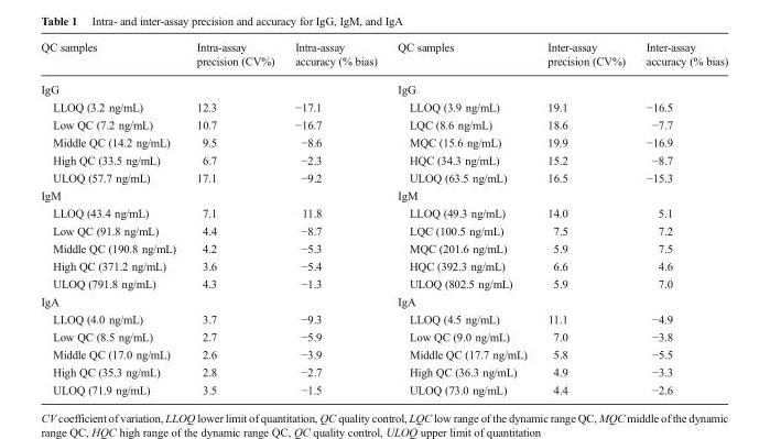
<table><thead><tr><td>QC samples</td><td>Intra-assay precision (CV%)</td><td>Intra-assay accuracy (% bias)</td><td>QC samples</td><td>Inter-assay precision (CV%)</td><td>Inter-assay accuracy (% bias)</td></tr></thead><tbody><tr><td colspan="3">IgG</td><td colspan="3">IgG</td></tr><tr><td>LLOQ (3.2 ng/mL)</td><td>12.3</td><td>−17.1</td><td>LLOQ (3.9 ng/mL)</td><td>19.1</td><td>−16.5</td></tr><tr><td>Low QC (7.2 ng/mL)</td><td>10.7</td><td>−16.7</td><td>LQC (8.6 ng/mL)</td><td>18.6</td><td>−7.7</td></tr><tr><td>Middle QC (14.2 ng/mL)</td><td>9.5</td><td>−8.6</td><td>MQC (15.6 ng/mL)</td><td>19.9</td><td>−16.9</td></tr><tr><td>High QC (33.5 ng/mL)</td><td>6.7</td><td>−2.3</td><td>HQC (34.3 ng/mL)</td><td>15.2</td><td>−8.7</td></tr><tr><td>ULOQ (57.7 ng/mL)</td><td>17.1</td><td>−9.2</td><td>ULOQ (63.5 ng/mL)</td><td>16.5</td><td>−15.3</td></tr><tr><td colspan="3">IgM</td><td colspan="3">IgM</td></tr><tr><td>LLOQ (43.4 ng/mL)</td><td>7.1</td><td>11.8</td><td>LLOQ (49.3 ng/mL)</td><td>14.0</td><td>5.1</td></tr><tr><td>Low QC (91.8 ng/mL)</td><td>4.4</td><td>−8.7</td><td>LQC (100.5 ng/mL)</td><td>7.5</td><td>7.2</td></tr><tr><td>Middle QC (190.8 ng/mL)</td><td>4.2</td><td>−5.3</td><td>MQC (201.6 ng/mL)</td><td>5.9</td><td>7.5</td></tr><tr><td>High QC (371.2 ng/mL)</td><td>3.6</td><td>−5.4</td><td>HQC (392.3 ng/mL)</td><td>6.6</td><td>4.6</td></tr><tr><td>ULOQ (791.8 ng/mL)</td><td>4.3</td><td>−1.3</td><td>ULOQ (802.5 ng/mL)</td><td>5.9</td><td>7.0</td></tr><tr><td colspan="3">IgA</td><td colspan="3">IgA</td></tr><tr><td>LLOQ (4.0 ng/mL)</td><td>3.7</td><td>−9.3</td><td>LLOQ (4.5 ng/mL)</td><td>11.1</td><td>−4.9</td></tr><tr><td>Low QC (8.5 ng/mL)</td><td>2.7</td><td>−5.9</td><td>Low QC (9.0 ng/mL)</td><td>7.0</td><td>−3.8</td></tr><tr><td>Middle QC (17.0 ng/mL)</td><td>2.6</td><td>−3.9</td><td>Middle QC (17.7 ng/mL)</td><td>5.8</td><td>−5.5</td></tr><tr><td>High QC (35.3 ng/mL)</td><td>2.8</td><td>−2.7</td><td>High QC (36.3 ng/mL)</td><td>4.9</td><td>−3.3</td></tr><tr><td>ULOQ (71.9 ng/mL)</td><td>3.5</td><td>−1.5</td><td>ULOQ (73.0 ng/mL)</td><td>4.4</td><td>−2.6</td></tr></tbody></table>